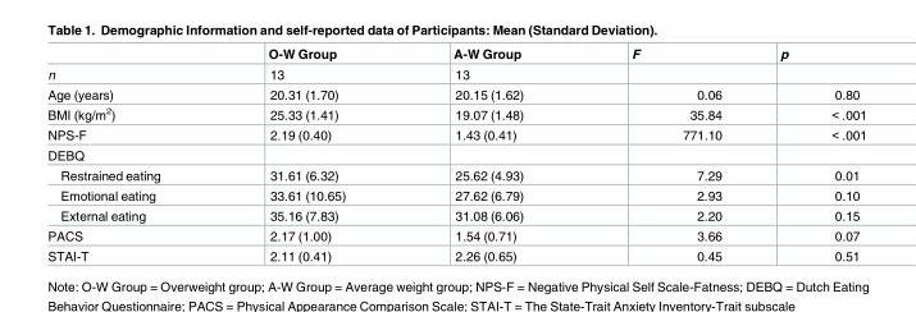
<table><thead><tr><td></td><td>O-W Group</td><td>A-W Group</td><td>F</td><td>p</td></tr></thead><tbody><tr><td>n</td><td>13</td><td>13</td><td></td><td></td></tr><tr><td>Age (years)</td><td>20.31 (1.70)</td><td>20.15 (1.62)</td><td>0.06</td><td>0.80</td></tr><tr><td>BMI (kg/m<sup>2</sup>)</td><td>25.33 (1.41)</td><td>19.07 (1.48)</td><td>35.84</td><td>&lt; .001</td></tr><tr><td>NPS-F</td><td>2.19 (0.40)</td><td>1.43 (0.41)</td><td>771.10</td><td>&lt; .001</td></tr><tr><td colspan="5">DEBQ</td></tr><tr><td>Restrained eating</td><td>31.61 (6.32)</td><td>25.62 (4.93)</td><td>7.29</td><td>0.01</td></tr><tr><td>Emotional eating</td><td>33.61 (10.65)</td><td>27.62 (6.79)</td><td>2.93</td><td>0.10</td></tr><tr><td>External eating</td><td>35.16 (7.83)</td><td>31.08 (6.06)</td><td>2.20</td><td>0.15</td></tr><tr><td>PACS</td><td>2.17 (1.00)</td><td>1.54 (0.71)</td><td>3.66</td><td>0.07</td></tr><tr><td>STAI-T</td><td>2.11 (0.41)</td><td>2.26 (0.65)</td><td>0.45</td><td>0.51</td></tr></tbody></table>